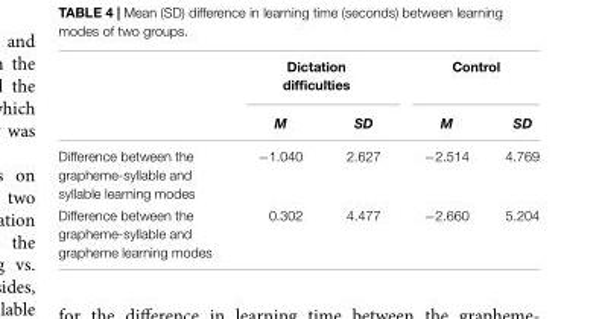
<table><thead><tr><td rowspan="2"></td><td colspan="2">Dictation difficulties</td><td colspan="2">Control</td></tr><tr><td>M</td><td>SD</td><td>M</td><td>SD</td></tr></thead><tbody><tr><td>Difference between the grapheme-syllable and syllable learning modes</td><td>−1.040</td><td>2.627</td><td>−2.514</td><td>4.769</td></tr><tr><td>Difference between the grapheme-syllable and grapheme learning modes</td><td>0.302</td><td>4.477</td><td>−2.660</td><td>5.204</td></tr></tbody></table>